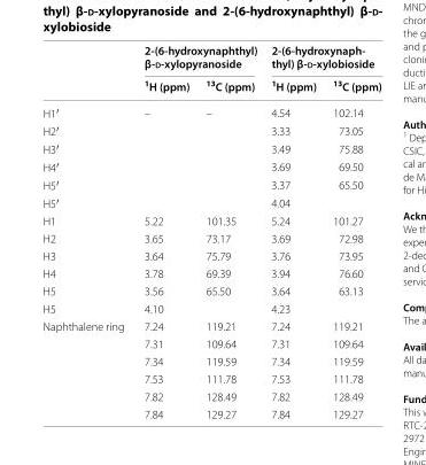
<table><thead><tr><td rowspan="2"></td><td colspan="2">2‑(6‑hydroxynaphthyl) β-d-xylopyranoside</td><td colspan="2">2‑(6‑hydroxynaph‑ thyl) β-d-xylobioside</td></tr><tr><td><sup>1</sup>H (ppm)</td><td><sup>13</sup>C (ppm)</td><td><sup>1</sup>H (ppm)</td><td><sup>13</sup>C (ppm)</td></tr></thead><tbody><tr><td>H1′</td><td rowspan="6">–</td><td rowspan="6">–</td><td>4.54</td><td>102.14</td></tr><tr><td>H2′</td><td>3.33</td><td>73.05</td></tr><tr><td>H3′</td><td>3.49</td><td>75.88</td></tr><tr><td>H4′</td><td>3.69</td><td>69.50</td></tr><tr><td>H5′</td><td>3.37</td><td rowspan="2">65.50</td></tr><tr><td>H5′</td><td>4.04</td></tr><tr><td>H1</td><td>5.22</td><td>101.35</td><td>5.24</td><td>101.27</td></tr><tr><td>H2</td><td>3.65</td><td>73.17</td><td>3.69</td><td>72.98</td></tr><tr><td>H3</td><td>3.64</td><td>75.79</td><td>3.76</td><td>73.95</td></tr><tr><td>H4</td><td>3.78</td><td>69.39</td><td>3.94</td><td>76.60</td></tr><tr><td>H5</td><td>3.56</td><td rowspan="2">65.50</td><td>3.64</td><td rowspan="2">63.13</td></tr><tr><td>H5</td><td>4.10</td><td>4.23</td></tr><tr><td rowspan="6">Naphthalene ring</td><td>7.24</td><td>119.21</td><td>7.24</td><td>119.21</td></tr><tr><td>7.31</td><td>109.64</td><td>7.31</td><td>109.64</td></tr><tr><td>7.34</td><td>119.59</td><td>7.34</td><td>119.59</td></tr><tr><td>7.53</td><td>111.78</td><td>7.53</td><td>111.78</td></tr><tr><td>7.82</td><td>128.49</td><td>7.82</td><td>128.49</td></tr><tr><td>7.84</td><td>129.27</td><td>7.84</td><td>129.27</td></tr></tbody></table>